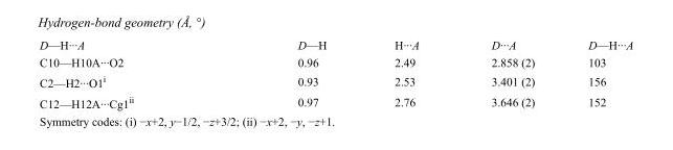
<table><tbody><tr><td>D—H···A</td><td>D—H</td><td>H···A</td><td>D···A</td><td>D—H···A</td></tr><tr><td>C10—H10A···O2</td><td>0.96</td><td>2.49</td><td>2.858 (2)</td><td>103</td></tr><tr><td>C2—H2···O1<sup>i</sup></td><td>0.93</td><td>2.53</td><td>3.401 (2)</td><td>156</td></tr><tr><td>C12—H12A···Cg1<sup>ii</sup></td><td>0.97</td><td>2.76</td><td>3.646 (2)</td><td>152</td></tr></tbody></table>